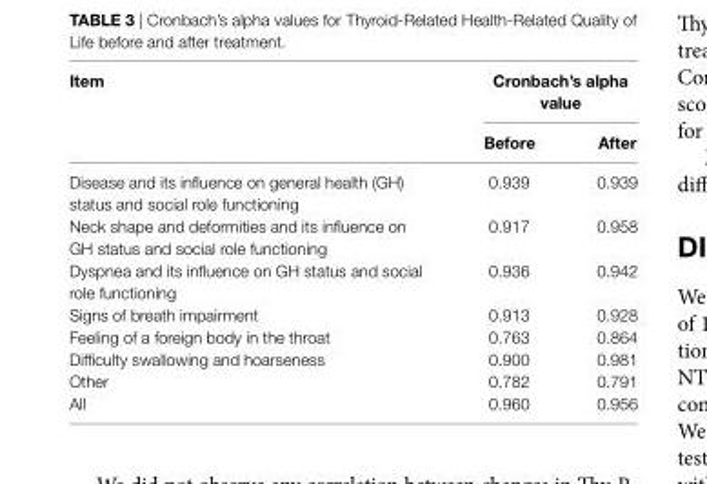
<table><thead><tr><td rowspan="2">item</td><td colspan="2">cronbach’s alpha value</td></tr><tr><td>Before</td><td>after</td></tr></thead><tbody><tr><td>Disease and its influence on general health (GH) status and social role functioning</td><td>0.939</td><td>0.939</td></tr><tr><td>Neck shape and deformities and its influence on GH status and social role functioning</td><td>0.917</td><td>0.958</td></tr><tr><td>Dyspnea and its influence on GH status and social role functioning</td><td>0.936</td><td>0.942</td></tr><tr><td>Signs of breath impairment</td><td>0.913</td><td>0.928</td></tr><tr><td>Feeling of a foreign body in the throat</td><td>0.763</td><td>0.864</td></tr><tr><td>Difficulty swallowing and hoarseness</td><td>0.900</td><td>0.981</td></tr><tr><td>Other</td><td>0.782</td><td>0.791</td></tr><tr><td>All</td><td>0.960</td><td>0.956</td></tr></tbody></table>